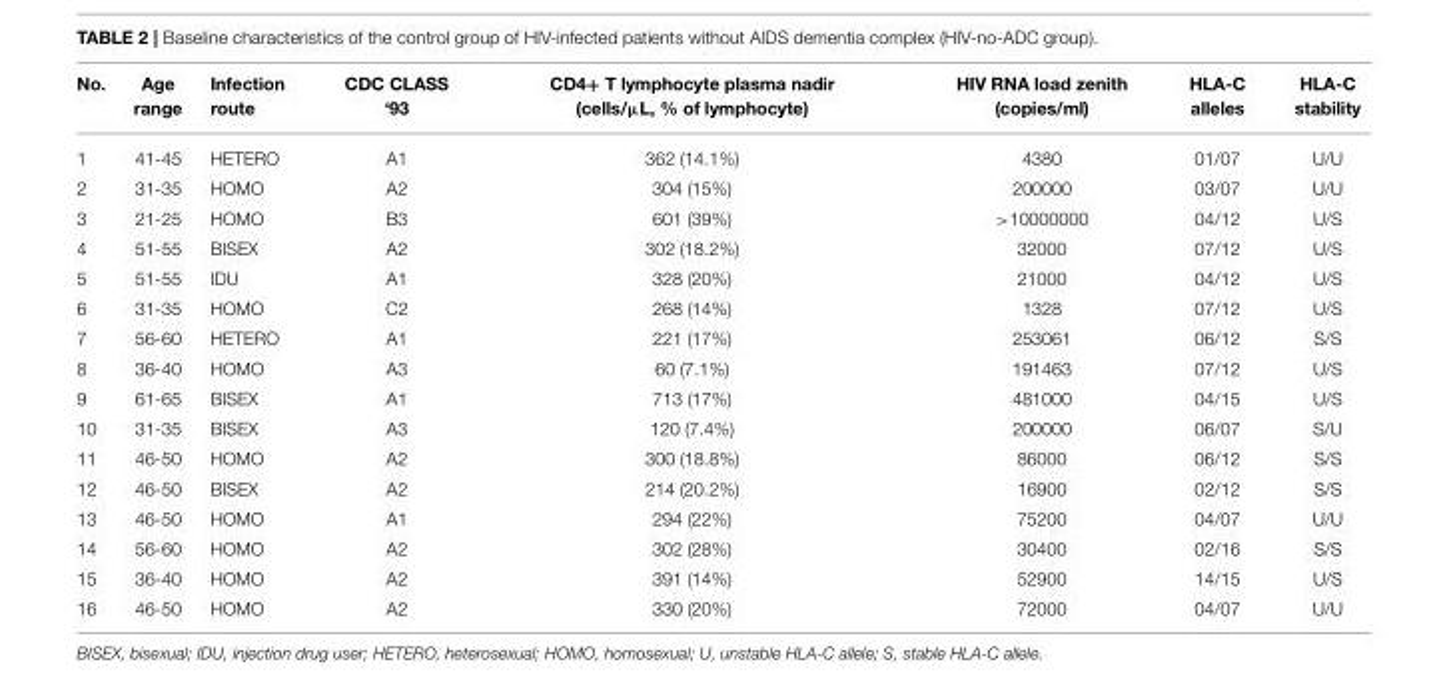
<table><thead><tr><td>No.</td><td>Age range</td><td>Infection route</td><td>CDC CLASS ‘93</td><td>CD4+ T lymphocyte plasma nadir (cells/µL, % of lymphocyte)</td><td>HIV RNA load zenith (copies/ml)</td><td>HLA-C alleles</td><td>HLA-C stability</td></tr></thead><tbody><tr><td>1</td><td>41-45</td><td>HETERO</td><td>A1</td><td>362 (14.1%)</td><td>4380</td><td>01/07</td><td>U/U</td></tr><tr><td>2</td><td>31-35</td><td>HOMO</td><td>A2</td><td>304 (15%)</td><td>200000</td><td>03/07</td><td>U/U</td></tr><tr><td>3</td><td>21-25</td><td>HOMO</td><td>B3</td><td>601 (39%)</td><td>&gt;10000000</td><td>04/12</td><td>U/S</td></tr><tr><td>4</td><td>51-55</td><td>BISEX</td><td>A2</td><td>302 (18.2%)</td><td>32000</td><td>07/12</td><td>U/S</td></tr><tr><td>5</td><td>51-55</td><td>IDU</td><td>A1</td><td>328 (20%)</td><td>21000</td><td>04/12</td><td>U/S</td></tr><tr><td>6</td><td>31-35</td><td>HOMO</td><td>C2</td><td>268 (14%)</td><td>1328</td><td>07/12</td><td>U/S</td></tr><tr><td>7</td><td>56-60</td><td>HETERO</td><td>A1</td><td>221 (17%)</td><td>253061</td><td>06/12</td><td>S/S</td></tr><tr><td>8</td><td>36-40</td><td>HOMO</td><td>A3</td><td>60 (7.1%)</td><td>191463</td><td>07/12</td><td>U/S</td></tr><tr><td>9</td><td>61-65</td><td>BISEX</td><td>A1</td><td>713 (17%)</td><td>481000</td><td>04/15</td><td>U/S</td></tr><tr><td>10</td><td>31-35</td><td>BISEX</td><td>A3</td><td>120 (7.4%)</td><td>200000</td><td>06/07</td><td>S/U</td></tr><tr><td>11</td><td>46-50</td><td>HOMO</td><td>A2</td><td>300 (18.8%)</td><td>86000</td><td>06/12</td><td>S/S</td></tr><tr><td>12</td><td>46-50</td><td>BISEX</td><td>A2</td><td>214 (20.2%)</td><td>16900</td><td>02/12</td><td>S/S</td></tr><tr><td>13</td><td>46-50</td><td>HOMO</td><td>A1</td><td>294 (22%)</td><td>75200</td><td>04/07</td><td>U/U</td></tr><tr><td>14</td><td>56-60</td><td>HOMO</td><td>A2</td><td>302 (28%)</td><td>30400</td><td>02/16</td><td>S/S</td></tr><tr><td>15</td><td>36-40</td><td>HOMO</td><td>A2</td><td>391 (14%)</td><td>52900</td><td>14/15</td><td>U/S</td></tr><tr><td>16</td><td>46-50</td><td>HOMO</td><td>A2</td><td>330 (20%)</td><td>72000</td><td>04/07</td><td>U/U</td></tr></tbody></table>